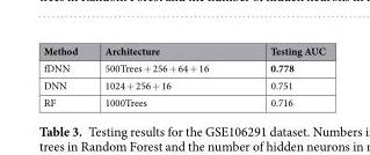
<table><thead><tr><td>Method</td><td>Architecture</td><td>Testing AUC</td></tr></thead><tbody><tr><td>fDNN</td><td>500Trees + 256 + 64 + 16</td><td>0.778</td></tr><tr><td>DNN</td><td>1024 + 256 + 16</td><td>0.751</td></tr><tr><td>RF</td><td>1000Trees</td><td>0.716</td></tr></tbody></table>